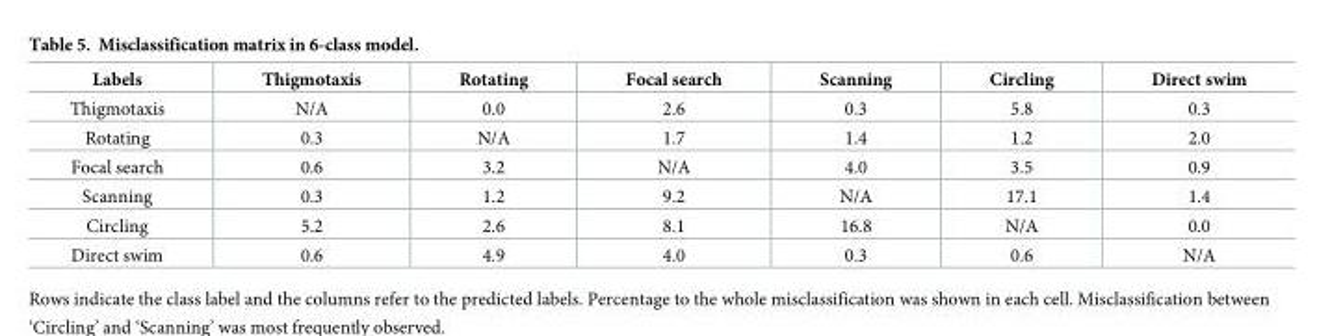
<table><thead><tr><td>Labels</td><td>Thigmotaxis</td><td>Rotating</td><td>Focal search</td><td>Scanning</td><td>Circling</td><td>Direct swim</td></tr></thead><tbody><tr><td>Thigmotaxis</td><td>N/A</td><td>0.0</td><td>2.6</td><td>0.3</td><td>5.8</td><td>0.3</td></tr><tr><td>Rotating</td><td>0.3</td><td>N/A</td><td>1.7</td><td>1.4</td><td>1.2</td><td>2.0</td></tr><tr><td>Focal search</td><td>0.6</td><td>3.2</td><td>N/A</td><td>4.0</td><td>3.5</td><td>0.9</td></tr><tr><td>Scanning</td><td>0.3</td><td>1.2</td><td>9.2</td><td>N/A</td><td>17.1</td><td>1.4</td></tr><tr><td>Circling</td><td>5.2</td><td>2.6</td><td>8.1</td><td>16.8</td><td>N/A</td><td>0.0</td></tr><tr><td>Direct swim</td><td>0.6</td><td>4.9</td><td>4.0</td><td>0.3</td><td>0.6</td><td>N/A</td></tr></tbody></table>